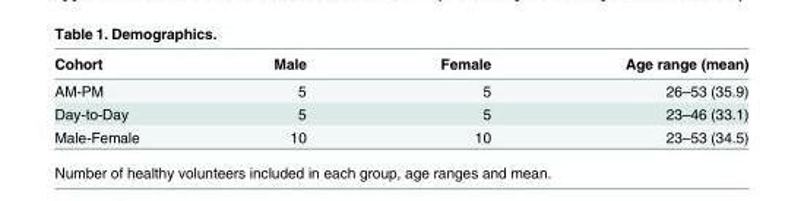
<table><thead><tr><td>Cohort</td><td>Male</td><td>Female</td><td>Age range (mean)</td></tr></thead><tbody><tr><td>AM-PM</td><td>5</td><td>5</td><td>26–53 (35.9)</td></tr><tr><td>Day-to-Day</td><td>5</td><td>5</td><td>23–46 (33.1)</td></tr><tr><td>Male-Female</td><td>10</td><td>10</td><td>23–53 (34.5)</td></tr></tbody></table>